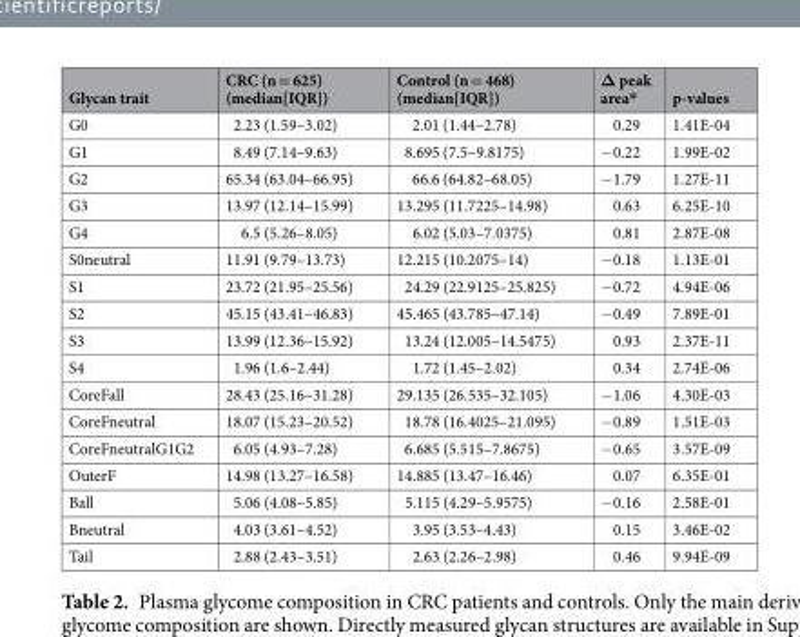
<table><thead><tr><td>Glycan trait</td><td>CRC (n = 625) (median[IQR])</td><td>Control (n = 468) (median[IQR])</td><td>Δ peak area*</td><td>p-values</td></tr></thead><tbody><tr><td>G0</td><td>2.23 (1.59–3.02)</td><td>2.01 (1.44–2.78)</td><td>0.29</td><td>1.41E-04</td></tr><tr><td>G1</td><td>8.49 (7.14–9.63)</td><td>8.695 (7.5–9.8175)</td><td>−0.22</td><td>1.99E-02</td></tr><tr><td>G2</td><td>65.34 (63.04–66.95)</td><td>66.6 (64.82–68.05)</td><td>−1.79</td><td>1.27E-11</td></tr><tr><td>G3</td><td>13.97 (12.14–15.99)</td><td>13.295 (11.7225–14.98)</td><td>0.63</td><td>6.25E-10</td></tr><tr><td>G4</td><td>6.5 (5.26–8.05)</td><td>6.02 (5.03–7.0375)</td><td>0.81</td><td>2.87E-08</td></tr><tr><td>S0neutral</td><td>11.91 (9.79–13.73)</td><td>12.215 (10.2075–14)</td><td>−0.18</td><td>1.13E-01</td></tr><tr><td>S1</td><td>23.72 (21.95–25.56)</td><td>24.29 (22.9125–25.825)</td><td>−0.72</td><td>4.94E-06</td></tr><tr><td>S2</td><td>45.15 (43.41–46.83)</td><td>45.465 (43.785–47.14)</td><td>−0.49</td><td>7.89E-01</td></tr><tr><td>S3</td><td>13.99 (12.36–15.92)</td><td>13.24 (12.005–14.5475)</td><td>0.93</td><td>2.37E-11</td></tr><tr><td>S4</td><td>1.96 (1.6–2.44)</td><td>1.72 (1.45–2.02)</td><td>0.34</td><td>2.74E-06</td></tr><tr><td>CoreFall</td><td>28.43 (25.16–31.28)</td><td>29.135 (26.535–32.105)</td><td>−1.06</td><td>4.30E-03</td></tr><tr><td>CoreFneutral</td><td>18.07 (15.23–20.52)</td><td>18.78 (16.4025–21.095)</td><td>−0.89</td><td>1.51E-03</td></tr><tr><td>CoreFneutralG1G2</td><td>6.05 (4.93–7.28)</td><td>6.685 (5.515–7.8675)</td><td>−0.65</td><td>3.57E-09</td></tr><tr><td>OuterF</td><td>14.98 (13.27–16.58)</td><td>14.885 (13.47–16.46)</td><td>0.07</td><td>6.35E-01</td></tr><tr><td>Ball</td><td>5.06 (4.08–5.85)</td><td>5.115 (4.29–5.9575)</td><td>−0.16</td><td>2.58E-01</td></tr><tr><td>Bneutral</td><td>4.03 (3.61–4.52)</td><td>3.95 (3.53–4.43)</td><td>0.15</td><td>3.46E-02</td></tr><tr><td>Tail</td><td>2.88 (2.43–3.51)</td><td>2.63 (2.26–2.98)</td><td>0.46</td><td>9.94E-09</td></tr></tbody></table>